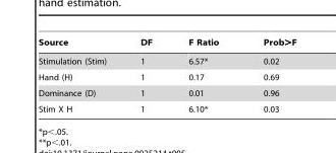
<table><thead><tr><td>Source</td><td>DF</td><td>F Ratio</td><td>Prob&gt;F</td></tr></thead><tbody><tr><td>Stimulation (Stim)</td><td>1</td><td>6.57*</td><td>0.02</td></tr><tr><td>Hand (H)</td><td>1</td><td>0.17</td><td>0.69</td></tr><tr><td>Dominance (D)</td><td>1</td><td>0.01</td><td>0.96</td></tr><tr><td>Stim X H</td><td>1</td><td>6.10*</td><td>0.03</td></tr></tbody></table>